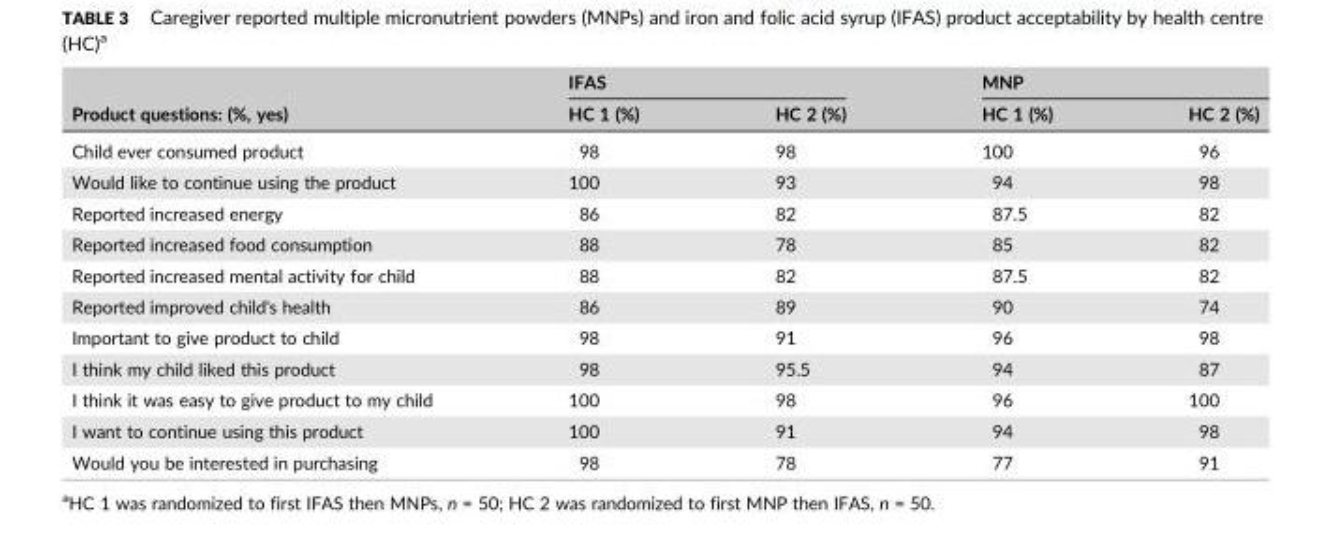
<table><thead><tr><td rowspan="2">Product questions: (%, yes)</td><td colspan="2">IFAS</td><td colspan="2">MNP</td></tr><tr><td>HC 1 (%)</td><td>HC 2 (%)</td><td>HC 1 (%)</td><td>HC 2 (%)</td></tr></thead><tbody><tr><td>Child ever consumed product</td><td>98</td><td>98</td><td>100</td><td>96</td></tr><tr><td>Would like to continue using the product</td><td>100</td><td>93</td><td>94</td><td>98</td></tr><tr><td>Reported increased energy</td><td>86</td><td>82</td><td>87.5</td><td>82</td></tr><tr><td>Reported increased food consumption</td><td>88</td><td>78</td><td>85</td><td>82</td></tr><tr><td>Reported increased mental activity for child</td><td>88</td><td>82</td><td>87.5</td><td>82</td></tr><tr><td>Reported improved child&#x27;s health</td><td>86</td><td>89</td><td>90</td><td>74</td></tr><tr><td>Important to give product to child</td><td>98</td><td>91</td><td>96</td><td>98</td></tr><tr><td>I think my child liked this product</td><td>98</td><td>95.5</td><td>94</td><td>87</td></tr><tr><td>I think it was easy to give product to my child</td><td>100</td><td>98</td><td>96</td><td>100</td></tr><tr><td>I want to continue using this product</td><td>100</td><td>91</td><td>94</td><td>98</td></tr><tr><td>Would you be interested in purchasing</td><td>98</td><td>78</td><td>77</td><td>91</td></tr></tbody></table>